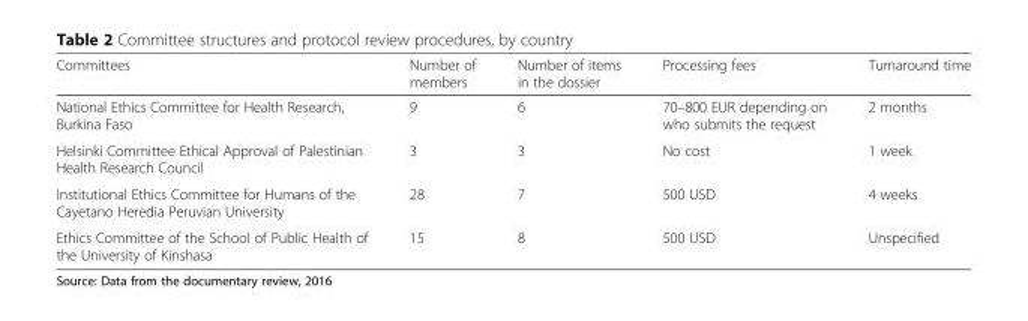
<table><thead><tr><td>Committees</td><td>Number of members</td><td>Number of items in the dossier</td><td>Processing fees</td><td>Turnaround time</td></tr></thead><tbody><tr><td>National Ethics Committee for Health Research, Burkina Faso</td><td>9</td><td>6</td><td>70–800 EUR depending on who submits the request</td><td>2 months</td></tr><tr><td>Helsinki Committee Ethical Approval of Palestinian Health Research Council</td><td>3</td><td>3</td><td>No cost</td><td>1 week</td></tr><tr><td>Institutional Ethics Committee for Humans of the Cayetano Heredia Peruvian University</td><td>28</td><td>7</td><td>500 USD</td><td>4 weeks</td></tr><tr><td>Ethics Committee of the School of Public Health of the University of Kinshasa</td><td>15</td><td>8</td><td>500 USD</td><td>Unspecified</td></tr></tbody></table>